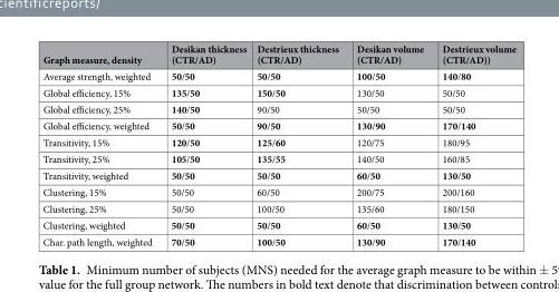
<table><thead><tr><td>Graph measure, density</td><td>Desikan thickness (CTR/AD)</td><td>Destrieux thickness (CTR/AD)</td><td>Desikan volume (CTR/AD)</td><td>Destrieux volume (CTR/AD))</td></tr></thead><tbody><tr><td>Average strength, weighted</td><td>50/50</td><td>50/50</td><td>100/50</td><td>140/80</td></tr><tr><td>Global efficiency, 15%</td><td>135/50</td><td>150/50</td><td>130/50</td><td>50/50</td></tr><tr><td>Global efficiency, 25%</td><td>140/50</td><td>90/50</td><td>50/50</td><td>50/50</td></tr><tr><td>Global efficiency, weighted</td><td>50/50</td><td>90/50</td><td>130/90</td><td>170/140</td></tr><tr><td>Transitivity, 15%</td><td>120/50</td><td>125/60</td><td>120/75</td><td>180/95</td></tr><tr><td>Transitivity, 25%</td><td>105/50</td><td>135/55</td><td>140/50</td><td>160/85</td></tr><tr><td>Transitivity, weighted</td><td>50/50</td><td>50/50</td><td>60/50</td><td>130/50</td></tr><tr><td>Clustering, 15%</td><td>50/50</td><td>60/50</td><td>200/75</td><td>200/160</td></tr><tr><td>Clustering, 25%</td><td>50/50</td><td>100/50</td><td>135/60</td><td>180/150</td></tr><tr><td>Clustering, weighted</td><td>50/50</td><td>50/50</td><td>60/50</td><td>130/50</td></tr><tr><td>Char. path length, weighted</td><td>70/50</td><td>100/50</td><td>130/90</td><td>170/140</td></tr></tbody></table>